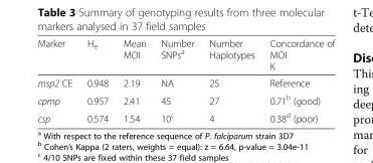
<table><thead><tr><td>Marker</td><td>H<sub>e</sub></td><td>Mean MOI</td><td>Number SNPs<sup>a</sup></td><td>Number Haplotypes</td><td>Concordance of MOI Κ</td></tr></thead><tbody><tr><td>msp2 CE</td><td>0.948</td><td>2.19</td><td>NA</td><td>25</td><td>Reference</td></tr><tr><td>cpmp</td><td>0.957</td><td>2.41</td><td>45</td><td>27</td><td>0.71<sup>b</sup> (good)</td></tr><tr><td>csp</td><td>0.574</td><td>1.54</td><td>10<sup>c</sup></td><td>4</td><td>0.38<sup>d</sup> (poor)</td></tr></tbody></table>